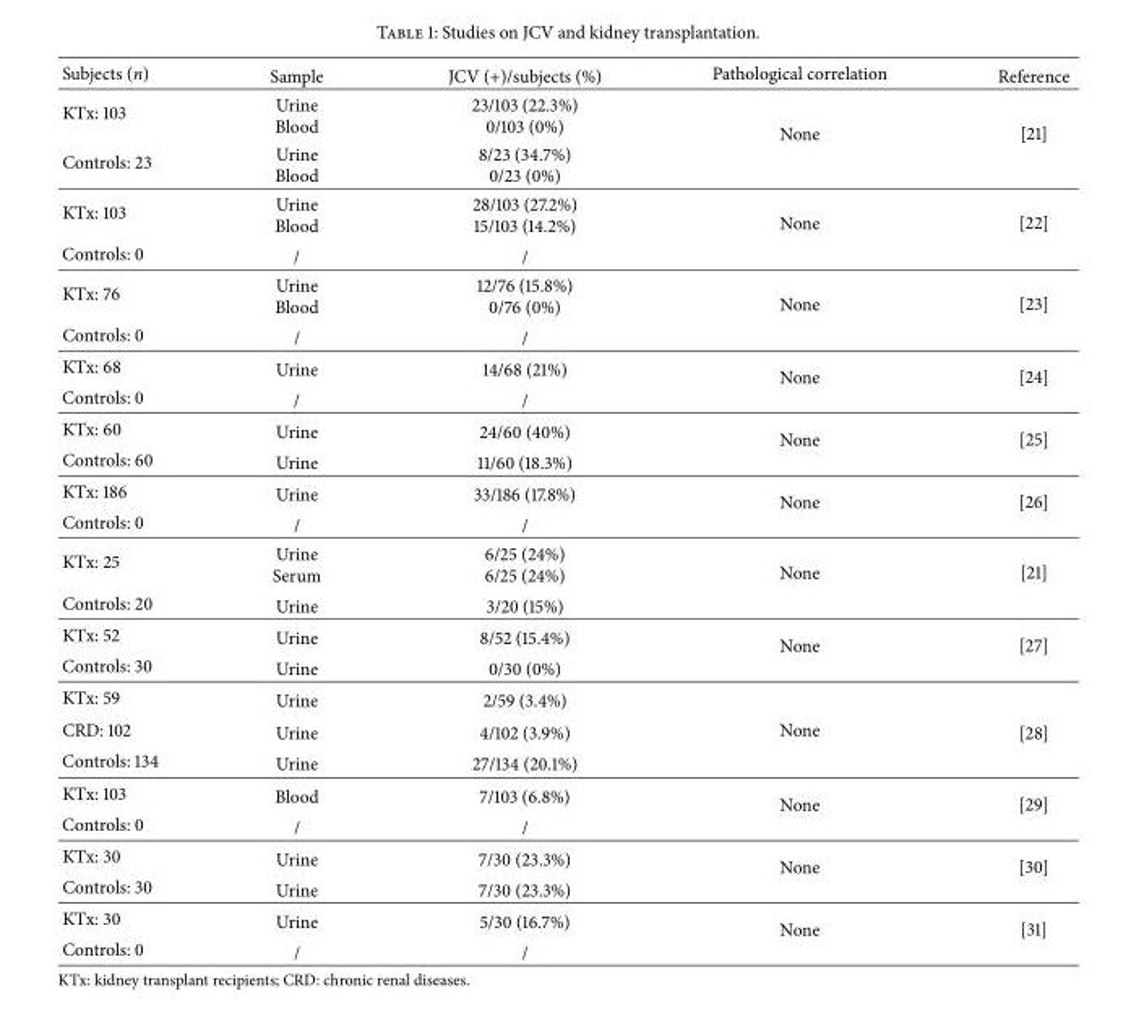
<table><thead><tr><td>Subjects (n)</td><td>Sample</td><td>JCV (+)/subjects (%)</td><td>Pathological correlation</td><td>Reference</td></tr></thead><tbody><tr><td>KTx: 103</td><td>Urine Blood</td><td>23/103 (22.3%) 0/103 (0%)</td><td rowspan="2">None</td><td rowspan="2">[21]</td></tr><tr><td>Controls: 23</td><td>Urine Blood</td><td>8/23 (34.7%) 0/23 (0%)</td></tr><tr><td>KTx: 103</td><td>Urine Blood</td><td>28/103 (27.2%) 15/103 (14.2%)</td><td rowspan="2">None</td><td rowspan="2">[22]</td></tr><tr><td>Controls: 0</td><td>/</td><td>/</td></tr><tr><td>KTx: 76</td><td>Urine Blood</td><td>12/76 (15.8%) 0/76 (0%)</td><td rowspan="2">None</td><td rowspan="2">[23]</td></tr><tr><td>Controls: 0</td><td>/</td><td>/</td></tr><tr><td>KTx: 68</td><td>Urine</td><td>14/68 (21%)</td><td rowspan="2">None</td><td rowspan="2">[24]</td></tr><tr><td>Controls: 0</td><td>/</td><td>/</td></tr><tr><td>KTx: 60</td><td>Urine</td><td>24/60 (40%)</td><td rowspan="2">None</td><td rowspan="2">[25]</td></tr><tr><td>Controls: 60</td><td>Urine</td><td>11/60 (18.3%)</td></tr><tr><td>KTx: 186</td><td>Urine</td><td>33/186 (17.8%)</td><td rowspan="2">None</td><td rowspan="2">[26]</td></tr><tr><td>Controls: 0</td><td>/</td><td>/</td></tr><tr><td>KTx: 25</td><td>Urine Serum</td><td>6/25 (24%) 6/25 (24%)</td><td rowspan="2">None</td><td rowspan="2">[21]</td></tr><tr><td>Controls: 20</td><td>Urine</td><td>3/20 (15%)</td></tr><tr><td>KTx: 52</td><td>Urine</td><td>8/52 (15.4%)</td><td rowspan="2">None</td><td rowspan="2">[27]</td></tr><tr><td>Controls: 30</td><td>Urine</td><td>0/30 (0%)</td></tr><tr><td>KTx: 59</td><td>Urine</td><td>2/59 (3.4%)</td><td></td><td></td></tr><tr><td>CRD: 102</td><td>Urine</td><td>4/102 (3.9%)</td><td>None</td><td>[28]</td></tr><tr><td>Controls: 134</td><td>Urine</td><td>27/134 (20.1%)</td><td></td><td></td></tr><tr><td>KTx: 103</td><td>Blood</td><td>7/103 (6.8%)</td><td rowspan="2">None</td><td rowspan="2">[29]</td></tr><tr><td>Controls: 0</td><td>/</td><td>/</td></tr><tr><td>KTx: 30</td><td>Urine</td><td>7/30 (23.3%)</td><td rowspan="2">None</td><td rowspan="2">[30]</td></tr><tr><td>Controls: 30</td><td>Urine</td><td>7/30 (23.3%)</td></tr><tr><td>KTx: 30</td><td>Urine</td><td>5/30 (16.7%)</td><td rowspan="2">None</td><td rowspan="2">[31]</td></tr><tr><td>Controls: 0</td><td>/</td><td>/</td></tr></tbody></table>